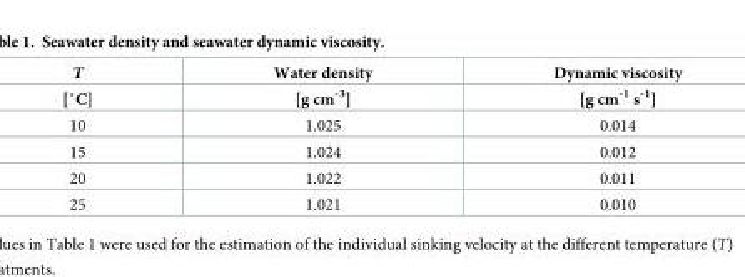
<table><thead><tr><td rowspan="2">T [˚C]</td><td rowspan="2">Water density [g cm<sup>-3</sup>]</td><td rowspan="2">Dynamic viscosity [g cm<sup>-1</sup> s<sup>-1</sup>]</td></tr><tr></tr></thead><tbody><tr><td>10</td><td>1.025</td><td>0.014</td></tr><tr><td>15</td><td>1.024</td><td>0.012</td></tr><tr><td>20</td><td>1.022</td><td>0.011</td></tr><tr><td>25</td><td>1.021</td><td>0.010</td></tr></tbody></table>